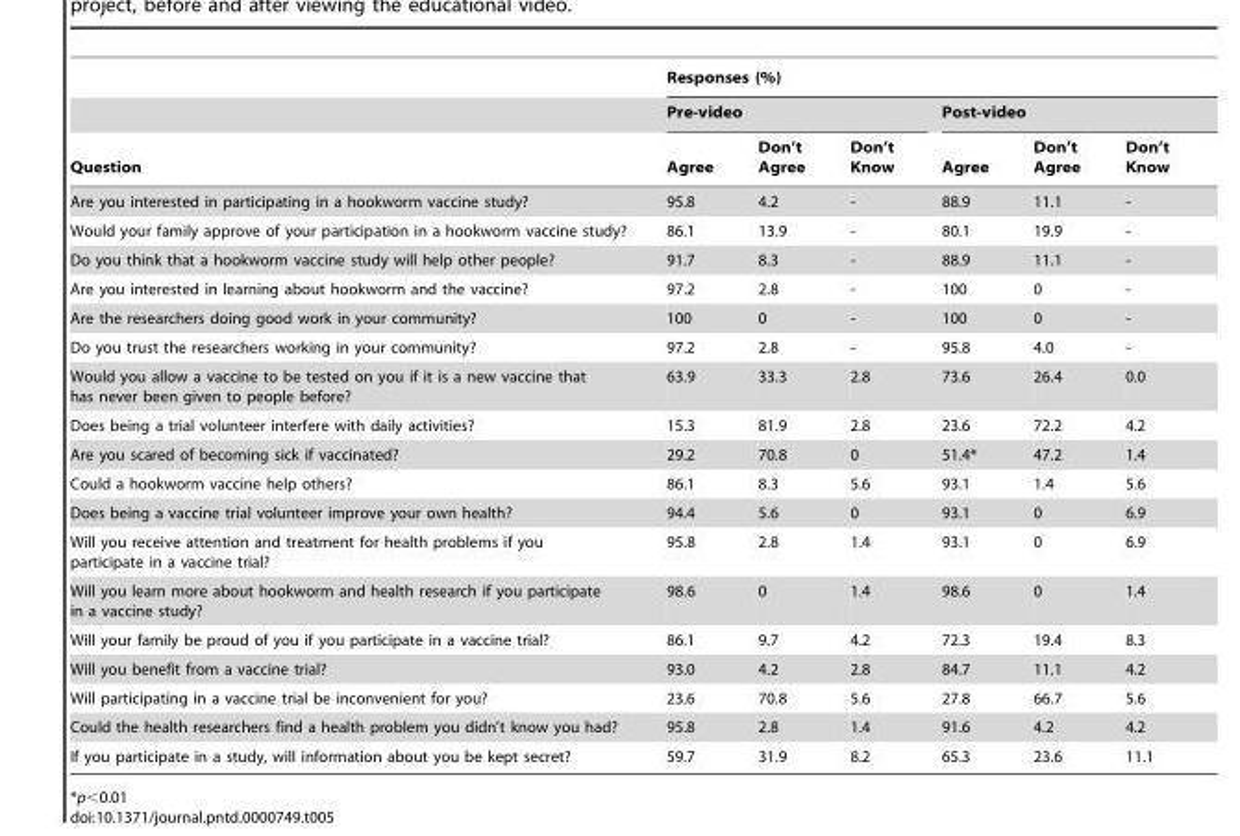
<table><thead><tr><td rowspan="3">Question</td><td colspan="6">Responses (%)</td></tr><tr><td colspan="3">Pre-video</td><td colspan="3">Post-video</td></tr><tr><td>Agree</td><td>Don’t Agree</td><td>Don’t Know</td><td>Agree</td><td>Don’t Agree</td><td>Don’t Know</td></tr></thead><tbody><tr><td>Are you interested in participating in a hookworm vaccine study?</td><td>95.8</td><td>4.2</td><td>-</td><td>88.9</td><td>11.1</td><td>-</td></tr><tr><td>Would your family approve of your participation in a hookworm vaccine study?</td><td>86.1</td><td>13.9</td><td>-</td><td>80.1</td><td>19.9</td><td>-</td></tr><tr><td>Do you think that a hookworm vaccine study will help other people?</td><td>91.7</td><td>8.3</td><td>-</td><td>88.9</td><td>11.1</td><td>-</td></tr><tr><td>Are you interested in learning about hookworm and the vaccine?</td><td>97.2</td><td>2.8</td><td>-</td><td>100</td><td>0</td><td>-</td></tr><tr><td>Are the researchers doing good work in your community?</td><td>100</td><td>0</td><td>-</td><td>100</td><td>0</td><td>-</td></tr><tr><td>Do you trust the researchers working in your community?</td><td>97.2</td><td>2.8</td><td>-</td><td>95.8</td><td>4.0</td><td>-</td></tr><tr><td>Would you allow a vaccine to be tested on you if it is a new vaccine that has never been given to people before?</td><td>63.9</td><td>33.3</td><td>2.8</td><td>73.6</td><td>26.4</td><td>0.0</td></tr><tr><td>Does being a trial volunteer interfere with daily activities?</td><td>15.3</td><td>81.9</td><td>2.8</td><td>23.6</td><td>72.2</td><td>4.2</td></tr><tr><td>Are you scared of becoming sick if vaccinated?</td><td>29.2</td><td>70.8</td><td>0</td><td>51.4*</td><td>47.2</td><td>1.4</td></tr><tr><td>Could a hookworm vaccine help others?</td><td>86.1</td><td>8.3</td><td>5.6</td><td>93.1</td><td>1.4</td><td>5.6</td></tr><tr><td>Does being a vaccine trial volunteer improve your own health?</td><td>94.4</td><td>5.6</td><td>0</td><td>93.1</td><td>0</td><td>6.9</td></tr><tr><td>Will you receive attention and treatment for health problems if you participate in a vaccine trial?</td><td>95.8</td><td>2.8</td><td>1.4</td><td>93.1</td><td>0</td><td>6.9</td></tr><tr><td>Will you learn more about hookworm and health research if you participate in a vaccine study?</td><td>98.6</td><td>0</td><td>1.4</td><td>98.6</td><td>0</td><td>1.4</td></tr><tr><td>Will your family be proud of you if you participate in a vaccine trial?</td><td>86.1</td><td>9.7</td><td>4.2</td><td>72.3</td><td>19.4</td><td>8.3</td></tr><tr><td>Will you benefit from a vaccine trial?</td><td>93.0</td><td>4.2</td><td>2.8</td><td>84.7</td><td>11.1</td><td>4.2</td></tr><tr><td>Will participating in a vaccine trial be inconvenient for you?</td><td>23.6</td><td>70.8</td><td>5.6</td><td>27.8</td><td>66.7</td><td>5.6</td></tr><tr><td>Could the health researchers find a health problem you didn’t know you had?</td><td>95.8</td><td>2.8</td><td>1.4</td><td>91.6</td><td>4.2</td><td>4.2</td></tr><tr><td>If you participate in a study, will information about you be kept secret?</td><td>59.7</td><td>31.9</td><td>8.2</td><td>65.3</td><td>23.6</td><td>11.1</td></tr></tbody></table>